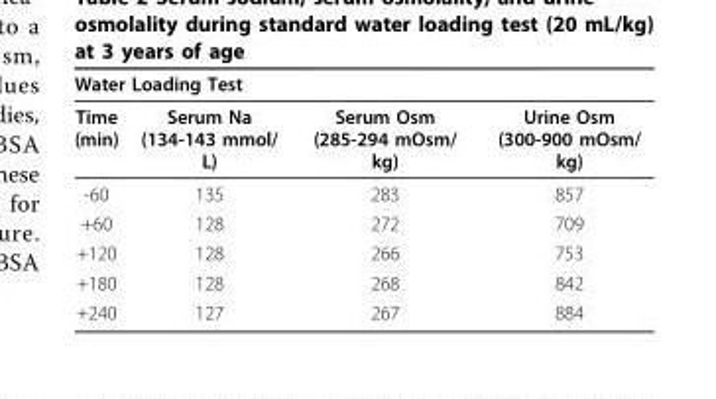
<table><thead><tr><td colspan="4">Water Loading Test</td></tr><tr><td>Time (min)</td><td>Serum Na (134-143 mmol/ L)</td><td>Serum Osm (285-294 mOsm/ kg)</td><td>Urine Osm (300-900 mOsm/ kg)</td></tr></thead><tbody><tr><td>-60</td><td>135</td><td>283</td><td>857</td></tr><tr><td>+60</td><td>128</td><td>272</td><td>709</td></tr><tr><td>+120</td><td>128</td><td>266</td><td>753</td></tr><tr><td>+180</td><td>128</td><td>268</td><td>842</td></tr><tr><td>+240</td><td>127</td><td>267</td><td>884</td></tr></tbody></table>